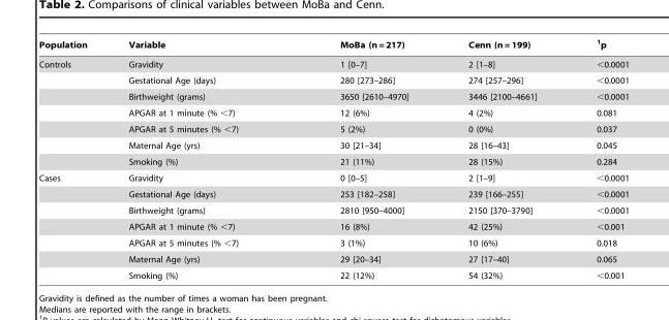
<table><thead><tr><td>Population</td><td>Variable</td><td>MoBa (n = 217)</td><td>Cenn (n = 199)</td><td>1p</td></tr></thead><tbody><tr><td rowspan="7">Controls</td><td>Gravidity</td><td>1 [0–7]</td><td>2 [1–8]</td><td>&lt;0.0001</td></tr><tr><td>Gestational Age (days)</td><td>280 [273–286]</td><td>274 [257–296]</td><td>&lt;0.0001</td></tr><tr><td>Birthweight (grams)</td><td>3650 [2610–4970]</td><td>3446 [2100–4661]</td><td>&lt;0.0001</td></tr><tr><td>APGAR at 1 minute (% &lt;7)</td><td>12 (6%)</td><td>4 (2%)</td><td>0.081</td></tr><tr><td>APGAR at 5 minutes (% &lt;7)</td><td>5 (2%)</td><td>0 (0%)</td><td>0.037</td></tr><tr><td>Maternal Age (yrs)</td><td>30 [21–34]</td><td>28 [16–43]</td><td>0.045</td></tr><tr><td>Smoking (%)</td><td>21 (11%)</td><td>28 (15%)</td><td>0.284</td></tr><tr><td rowspan="7">Cases</td><td>Gravidity</td><td>0 [0–5]</td><td>2 [1–9]</td><td>&lt;0.0001</td></tr><tr><td>Gestational Age (days)</td><td>253 [182–258]</td><td>239 [166–255]</td><td>&lt;0.0001</td></tr><tr><td>Birthweight (grams)</td><td>2810 [950–4000]</td><td>2150 [370–3790]</td><td>&lt;0.0001</td></tr><tr><td>APGAR at 1 minute (% &lt;7)</td><td>16 (8%)</td><td>42 (25%)</td><td>&lt;0.001</td></tr><tr><td>APGAR at 5 minutes (% &lt;7)</td><td>3 (1%)</td><td>10 (6%)</td><td>0.018</td></tr><tr><td>Maternal Age (yrs)</td><td>29 [20–34]</td><td>27 [17–40]</td><td>0.065</td></tr><tr><td>Smoking (%)</td><td>22 (12%)</td><td>54 (32%)</td><td>&lt;0.001</td></tr></tbody></table>